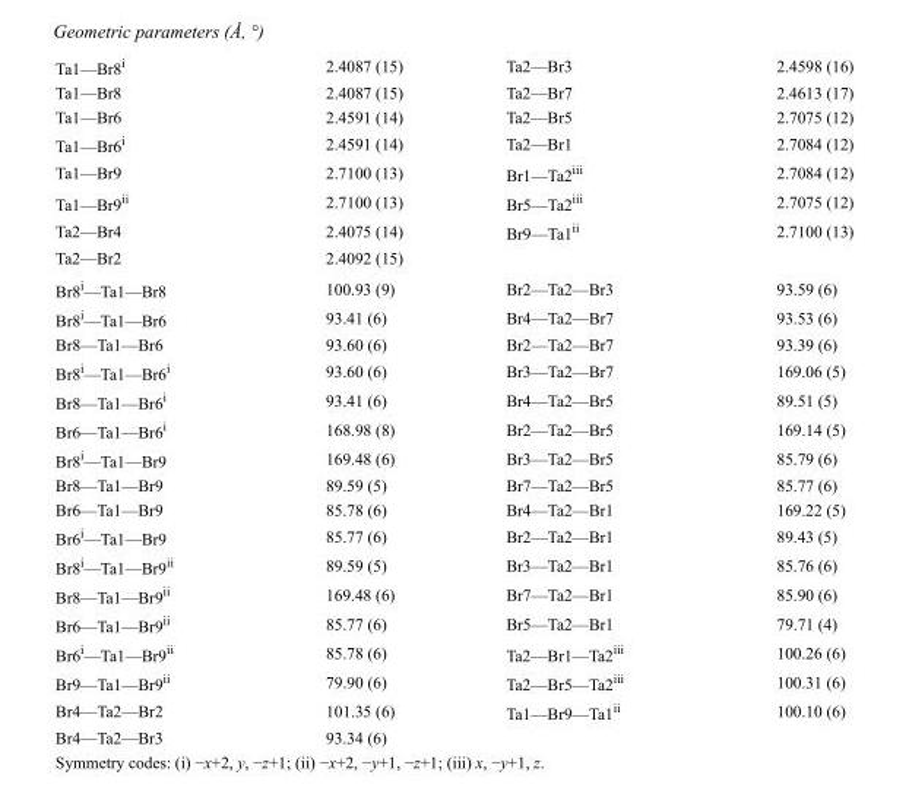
<table><tbody><tr><td>Ta1—Br8<sup>i</sup></td><td>2.4087 (15)</td><td>Ta2—Br3</td><td>2.4598 (16)</td></tr><tr><td>Ta1—Br8</td><td>2.4087 (15)</td><td>Ta2—Br7</td><td>2.4613 (17)</td></tr><tr><td>Ta1—Br6</td><td>2.4591 (14)</td><td>Ta2—Br5</td><td>2.7075 (12)</td></tr><tr><td>Ta1—Br6<sup>i</sup></td><td>2.4591 (14)</td><td>Ta2—Br1</td><td>2.7084 (12)</td></tr><tr><td>Ta1—Br9</td><td>2.7100 (13)</td><td>Br1—Ta2<sup>iii</sup></td><td>2.7084 (12)</td></tr><tr><td>Ta1—Br9<sup>ii</sup></td><td>2.7100 (13)</td><td>Br5—Ta2<sup>iii</sup></td><td>2.7075 (12)</td></tr><tr><td>Ta2—Br4</td><td>2.4075 (14)</td><td>Br9—Ta1<sup>ii</sup></td><td>2.7100 (13)</td></tr><tr><td>Ta2—Br2</td><td>2.4092 (15)</td><td></td><td></td></tr><tr><td>Br8<sup>i</sup>—Ta1—Br8</td><td>100.93 (9)</td><td>Br2—Ta2—Br3</td><td>93.59 (6)</td></tr><tr><td>Br8<sup>i</sup>—Ta1—Br6</td><td>93.41 (6)</td><td>Br4—Ta2—Br7</td><td>93.53 (6)</td></tr><tr><td>Br8—Ta1—Br6</td><td>93.60 (6)</td><td>Br2—Ta2—Br7</td><td>93.39 (6)</td></tr><tr><td>Br8<sup>i</sup>—Ta1—Br6<sup>i</sup></td><td>93.60 (6)</td><td>Br3—Ta2—Br7</td><td>169.06 (5)</td></tr><tr><td>Br8—Ta1—Br6<sup>i</sup></td><td>93.41 (6)</td><td>Br4—Ta2—Br5</td><td>89.51 (5)</td></tr><tr><td>Br6—Ta1—Br6<sup>i</sup></td><td>168.98 (8)</td><td>Br2—Ta2—Br5</td><td>169.14 (5)</td></tr><tr><td>Br8<sup>i</sup>—Ta1—Br9</td><td>169.48 (6)</td><td>Br3—Ta2—Br5</td><td>85.79 (6)</td></tr><tr><td>Br8—Ta1—Br9</td><td>89.59 (5)</td><td>Br7—Ta2—Br5</td><td>85.77 (6)</td></tr><tr><td>Br6—Ta1—Br9</td><td>85.78 (6)</td><td>Br4—Ta2—Br1</td><td>169.22 (5)</td></tr><tr><td>Br6<sup>i</sup>—Ta1—Br9</td><td>85.77 (6)</td><td>Br2—Ta2—Br1</td><td>89.43 (5)</td></tr><tr><td>Br8<sup>i</sup>—Ta1—Br9<sup>ii</sup></td><td>89.59 (5)</td><td>Br3—Ta2—Br1</td><td>85.76 (6)</td></tr><tr><td>Br8—Ta1—Br9<sup>ii</sup></td><td>169.48 (6)</td><td>Br7—Ta2—Br1</td><td>85.90 (6)</td></tr><tr><td>Br6—Ta1—Br9<sup>ii</sup></td><td>85.77 (6)</td><td>Br5—Ta2—Br1</td><td>79.71 (4)</td></tr><tr><td>Br6<sup>i</sup>—Ta1—Br9<sup>ii</sup></td><td>85.78 (6)</td><td>Ta2—Br1—Ta2<sup>iii</sup></td><td>100.26 (6)</td></tr><tr><td>Br9—Ta1—Br9<sup>ii</sup></td><td>79.90 (6)</td><td>Ta2—Br5—Ta2<sup>iii</sup></td><td>100.31 (6)</td></tr><tr><td>Br4—Ta2—Br2</td><td>101.35 (6)</td><td>Ta1—Br9—Ta1<sup>ii</sup></td><td>100.10 (6)</td></tr><tr><td>Br4—Ta2—Br3</td><td>93.34 (6)</td><td></td><td></td></tr></tbody></table>